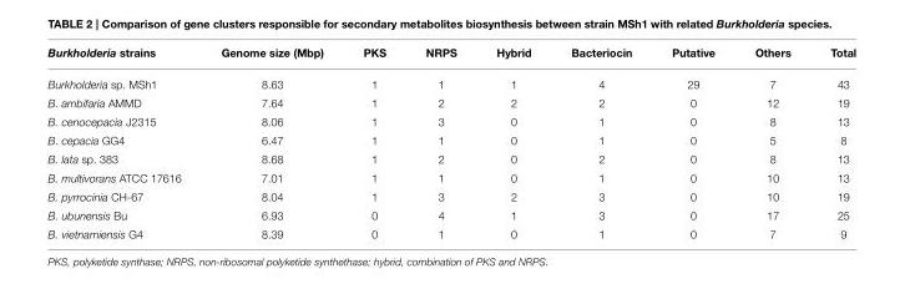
<table><thead><tr><td>Burkholderia strains</td><td>Genome size (Mbp)</td><td>PKS</td><td>NRPS</td><td>Hybrid</td><td>Bacteriocin</td><td>Putative</td><td>Others</td><td>Total</td></tr></thead><tbody><tr><td>Burkholderia sp. MSh1</td><td>8.63</td><td>1</td><td>1</td><td>1</td><td>4</td><td>29</td><td>7</td><td>43</td></tr><tr><td>B. ambifaria AMMD</td><td>7.64</td><td>1</td><td>2</td><td>2</td><td>2</td><td>0</td><td>12</td><td>19</td></tr><tr><td>B. cenocepacia J2315</td><td>8.06</td><td>1</td><td>3</td><td>0</td><td>1</td><td>0</td><td>8</td><td>13</td></tr><tr><td>B. cepacia GG4</td><td>6.47</td><td>1</td><td>1</td><td>0</td><td>1</td><td>0</td><td>5</td><td>8</td></tr><tr><td>B. lata sp. 383</td><td>8.68</td><td>1</td><td>2</td><td>0</td><td>2</td><td>0</td><td>8</td><td>13</td></tr><tr><td>B. multivorans ATCC 17616</td><td>7.01</td><td>1</td><td>1</td><td>0</td><td>1</td><td>0</td><td>10</td><td>13</td></tr><tr><td>B. pyrrocinia CH-67</td><td>8.04</td><td>1</td><td>3</td><td>2</td><td>3</td><td>0</td><td>10</td><td>19</td></tr><tr><td>B. ubunensis Bu</td><td>6.93</td><td>0</td><td>4</td><td>1</td><td>3</td><td>0</td><td>17</td><td>25</td></tr><tr><td>B. vietnamiensis G4</td><td>8.39</td><td>0</td><td>1</td><td>0</td><td>1</td><td>0</td><td>7</td><td>9</td></tr></tbody></table>